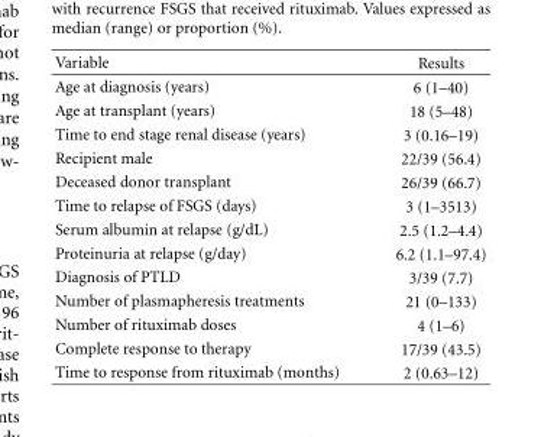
<table><thead><tr><td>Variable</td><td>Results</td></tr></thead><tbody><tr><td>Age at diagnosis (years)</td><td>6 (1–40)</td></tr><tr><td>Age at transplant (years)</td><td>18 (5–48)</td></tr><tr><td>Time to end stage renal disease (years)</td><td>3 (0.16–19)</td></tr><tr><td>Recipient male</td><td>22/39 (56.4)</td></tr><tr><td>Deceased donor transplant</td><td>26/39 (66.7)</td></tr><tr><td>Time to relapse of FSGS (days)</td><td>3 (1–3513)</td></tr><tr><td>Serum albumin at relapse (g/dL)</td><td>2.5 (1.2–4.4)</td></tr><tr><td>Proteinuria at relapse (g/day)</td><td>6.2 (1.1–97.4)</td></tr><tr><td>Diagnosis of PTLD</td><td>3/39 (7.7)</td></tr><tr><td>Number of plasmapheresis treatments</td><td>21 (0–133)</td></tr><tr><td>Number of rituximab doses</td><td>4 (1–6)</td></tr><tr><td>Complete response to therapy</td><td>17/39 (43.5)</td></tr><tr><td>Time to response from rituximab (months)</td><td>2 (0.63–12)</td></tr></tbody></table>